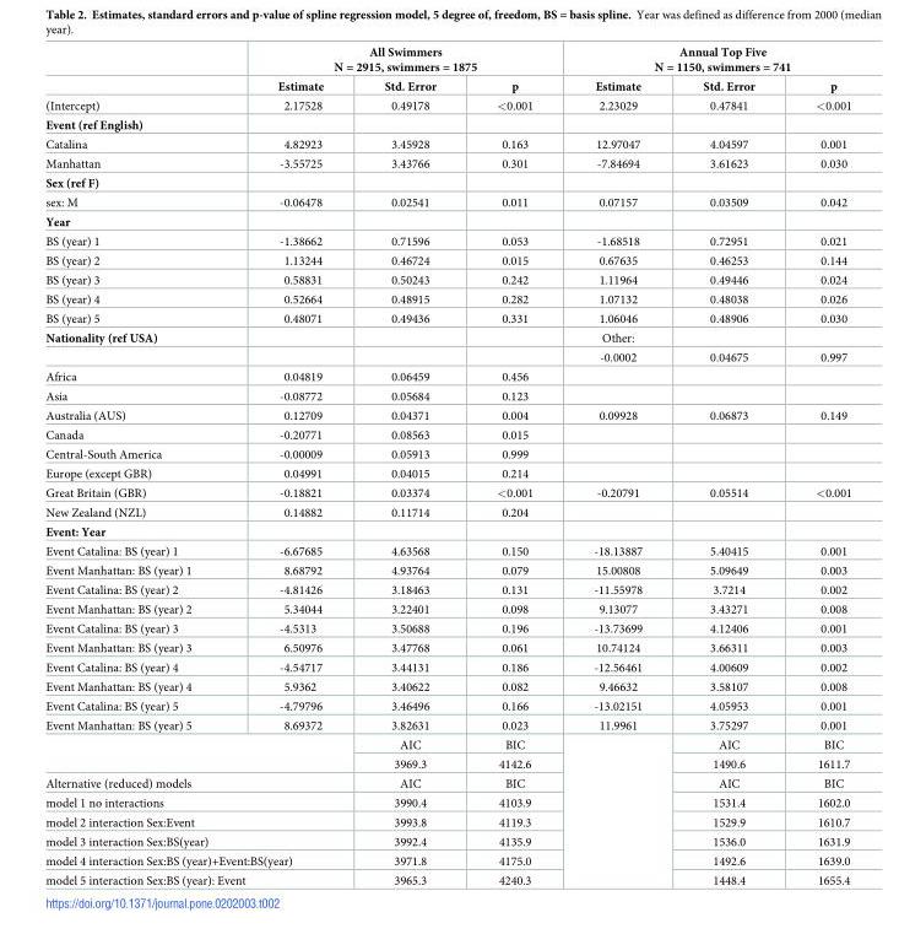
<table><thead><tr><td rowspan="2"></td><td colspan="3">All Swimmers N = 2915, swimmers = 1875</td><td colspan="3">Annual Top Five N = 1150, swimmers = 741</td></tr><tr><td>Estimate</td><td>Std. Error</td><td>p</td><td>Estimate</td><td>Std. Error</td><td>p</td></tr></thead><tbody><tr><td>(Intercept)</td><td>2.17528</td><td>0.49178</td><td>&lt;0.001</td><td>2.23029</td><td>0.47841</td><td>&lt;0.001</td></tr><tr><td colspan="7">Event (ref English)</td></tr><tr><td>Catalina</td><td>4.82923</td><td>3.45928</td><td>0.163</td><td>12.97047</td><td>4.04597</td><td>0.001</td></tr><tr><td>Manhattan</td><td>-3.55725</td><td>3.43766</td><td>0.301</td><td>-7.84694</td><td>3.61623</td><td>0.030</td></tr><tr><td colspan="7">Sex (ref F)</td></tr><tr><td>sex: M</td><td>-0.06478</td><td>0.02541</td><td>0.011</td><td>0.07157</td><td>0.03509</td><td>0.042</td></tr><tr><td colspan="7">Year</td></tr><tr><td>BS (year) 1</td><td>-1.38662</td><td>0.71596</td><td>0.053</td><td>-1.68518</td><td>0.72951</td><td>0.021</td></tr><tr><td>BS (year) 2</td><td>1.13244</td><td>0.46724</td><td>0.015</td><td>0.67635</td><td>0.46253</td><td>0.144</td></tr><tr><td>BS (year) 3</td><td>0.58831</td><td>0.50243</td><td>0.242</td><td>1.11964</td><td>0.49446</td><td>0.024</td></tr><tr><td>BS (year) 4</td><td>0.52664</td><td>0.48915</td><td>0.282</td><td>1.07132</td><td>0.48038</td><td>0.026</td></tr><tr><td>BS (year) 5</td><td>0.48071</td><td>0.49436</td><td>0.331</td><td>1.06046</td><td>0.48906</td><td>0.030</td></tr><tr><td rowspan="2">Nationality (ref USA)</td><td></td><td></td><td></td><td>Other:</td><td></td><td></td></tr><tr><td></td><td></td><td></td><td>-0.0002</td><td>0.04675</td><td>0.997</td></tr><tr><td>Africa</td><td>0.04819</td><td>0.06459</td><td>0.456</td><td></td><td></td><td></td></tr><tr><td>Asia</td><td>-0.08772</td><td>0.05684</td><td>0.123</td><td></td><td></td><td></td></tr><tr><td>Australia (AUS)</td><td>0.12709</td><td>0.04371</td><td>0.004</td><td>0.09928</td><td>0.06873</td><td>0.149</td></tr><tr><td>Canada</td><td>-0.20771</td><td>0.08563</td><td>0.015</td><td></td><td></td><td></td></tr><tr><td>Central-South America</td><td>-0.00009</td><td>0.05913</td><td>0.999</td><td></td><td></td><td></td></tr><tr><td>Europe (except GBR)</td><td>0.04991</td><td>0.04015</td><td>0.214</td><td></td><td></td><td></td></tr><tr><td>Great Britain (GBR)</td><td>-0.18821</td><td>0.03374</td><td>&lt;0.001</td><td>-0.20791</td><td>0.05514</td><td>&lt;0.001</td></tr><tr><td>New Zealand (NZL)</td><td>0.14882</td><td>0.11714</td><td>0.204</td><td></td><td></td><td></td></tr><tr><td colspan="7">Event: Year</td></tr><tr><td>Event Catalina: BS (year) 1</td><td>-6.67685</td><td>4.63568</td><td>0.150</td><td>-18.13887</td><td>5.40415</td><td>0.001</td></tr><tr><td>Event Manhattan: BS (year) 1</td><td>8.68792</td><td>4.93764</td><td>0.079</td><td>15.00808</td><td>5.09649</td><td>0.003</td></tr><tr><td>Event Catalina: BS (year) 2</td><td>-4.81426</td><td>3.18463</td><td>0.131</td><td>-11.55978</td><td>3.7214</td><td>0.002</td></tr><tr><td>Event Manhattan: BS (year) 2</td><td>5.34044</td><td>3.22401</td><td>0.098</td><td>9.13077</td><td>3.43271</td><td>0.008</td></tr><tr><td>Event Catalina: BS (year) 3</td><td>-4.5313</td><td>3.50688</td><td>0.196</td><td>-13.73699</td><td>4.12406</td><td>0.001</td></tr><tr><td>Event Manhattan: BS (year) 3</td><td>6.50976</td><td>3.47768</td><td>0.061</td><td>10.74124</td><td>3.66311</td><td>0.003</td></tr><tr><td>Event Catalina: BS (year) 4</td><td>-4.54717</td><td>3.44131</td><td>0.186</td><td>-12.56461</td><td>4.00609</td><td>0.002</td></tr><tr><td>Event Manhattan: BS (year) 4</td><td>5.9362</td><td>3.40622</td><td>0.082</td><td>9.46632</td><td>3.58107</td><td>0.008</td></tr><tr><td>Event Catalina: BS (year) 5</td><td>-4.79796</td><td>3.46496</td><td>0.166</td><td>-13.02151</td><td>4.05953</td><td>0.001</td></tr><tr><td>Event Manhattan: BS (year) 5</td><td>8.69372</td><td>3.82631</td><td>0.023</td><td>11.9961</td><td>3.75297</td><td>0.001</td></tr><tr><td rowspan="2" colspan="2"></td><td>AIC</td><td>BIC</td><td rowspan="8"></td><td>AIC</td><td>BIC</td></tr><tr><td>3969.3</td><td>4142.6</td><td>1490.6</td><td>1611.7</td></tr><tr><td colspan="2">Alternative (reduced) models</td><td>AIC</td><td>BIC</td><td>AIC</td><td>BIC</td></tr><tr><td colspan="2">model 1 no interactions</td><td>3990.4</td><td>4103.9</td><td>1531.4</td><td>1602.0</td></tr><tr><td colspan="2">model 2 interaction Sex:Event</td><td>3993.8</td><td>4119.3</td><td>1529.9</td><td>1610.7</td></tr><tr><td colspan="2">model 3 interaction Sex:BS(year)</td><td>3992.4</td><td>4135.9</td><td>1536.0</td><td>1631.9</td></tr><tr><td colspan="2">model 4 interaction Sex:BS (year)+Event:BS(year)</td><td>3971.8</td><td>4175.0</td><td>1492.6</td><td>1639.0</td></tr><tr><td colspan="2">model 5 interaction Sex:BS (year): Event</td><td>3965.3</td><td>4240.3</td><td>1448.4</td><td>1655.4</td></tr></tbody></table>